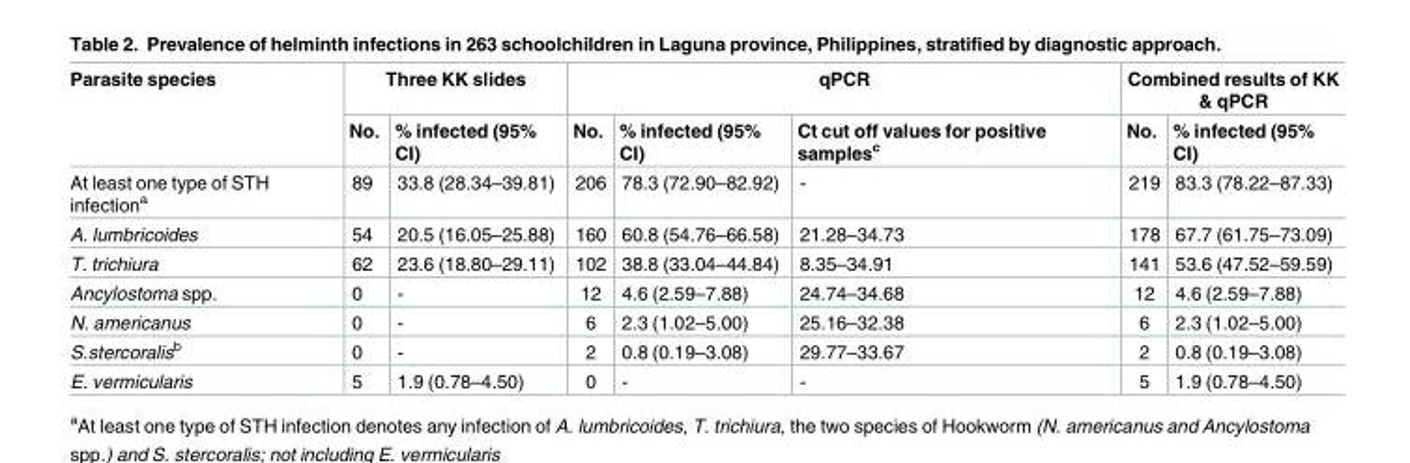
<table><thead><tr><td rowspan="2">Parasite species</td><td colspan="2">Three KK slides</td><td colspan="3">qPCR</td><td colspan="2">Combined results of KK &amp; qPCR</td></tr><tr><td>No.</td><td>% infected (95% CI)</td><td>No.</td><td>% infected (95% CI)</td><td>Ct cut off values for positive samples<sup>c</sup></td><td>No.</td><td>% infected (95% CI)</td></tr></thead><tbody><tr><td>At least one type of STH infection<sup>a</sup></td><td>89</td><td>33.8 (28.34–39.81)</td><td>206</td><td>78.3 (72.90–82.92)</td><td>-</td><td>219</td><td>83.3 (78.22–87.33)</td></tr><tr><td>A. lumbricoides</td><td>54</td><td>20.5 (16.05–25.88)</td><td>160</td><td>60.8 (54.76–66.58)</td><td>21.28–34.73</td><td>178</td><td>67.7 (61.75–73.09)</td></tr><tr><td>T. trichiura</td><td>62</td><td>23.6 (18.80–29.11)</td><td>102</td><td>38.8 (33.04–44.84)</td><td>8.35–34.91</td><td>141</td><td>53.6 (47.52–59.59)</td></tr><tr><td>Ancylostoma spp.</td><td>0</td><td>-</td><td>12</td><td>4.6 (2.59–7.88)</td><td>24.74–34.68</td><td>12</td><td>4.6 (2.59–7.88)</td></tr><tr><td>N. americanus</td><td>0</td><td>-</td><td>6</td><td>2.3 (1.02–5.00)</td><td>25.16–32.38</td><td>6</td><td>2.3 (1.02–5.00)</td></tr><tr><td>S.stercoralis<sup>b</sup></td><td>0</td><td>-</td><td>2</td><td>0.8 (0.19–3.08)</td><td>29.77–33.67</td><td>2</td><td>0.8 (0.19–3.08)</td></tr><tr><td>E. vermicularis</td><td>5</td><td>1.9 (0.78–4.50)</td><td>0</td><td>-</td><td>-</td><td>5</td><td>1.9 (0.78–4.50)</td></tr></tbody></table>